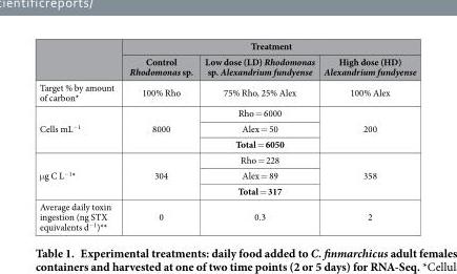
<table><thead><tr><td rowspan="2"></td><td colspan="3">Treatment</td></tr><tr><td>Control Rhodomonas sp.</td><td>Low dose (LD) Rhodomonas sp. Alexandrium fundyense</td><td>High dose (HD) Alexandrium fundyense</td></tr></thead><tbody><tr><td>Target % by amount of carbon*</td><td>100% Rho</td><td>75% Rho, 25% Alex</td><td>100% Alex</td></tr><tr><td rowspan="3">Cells mL<sup>−1</sup></td><td rowspan="3">8000</td><td>Rho = 6000</td><td rowspan="3">200</td></tr><tr><td>Alex = 50</td></tr><tr><td>Total = 6050</td></tr><tr><td rowspan="3">μ g C L<sup>−1</sup>*</td><td rowspan="3">304</td><td>Rho = 228</td><td rowspan="3">358</td></tr><tr><td>Alex = 89</td></tr><tr><td>Total = 317</td></tr><tr><td>Average daily toxin ingestion (ng STX equivalents d<sup>−1</sup>)**</td><td>0</td><td>0.3</td><td>2</td></tr></tbody></table>